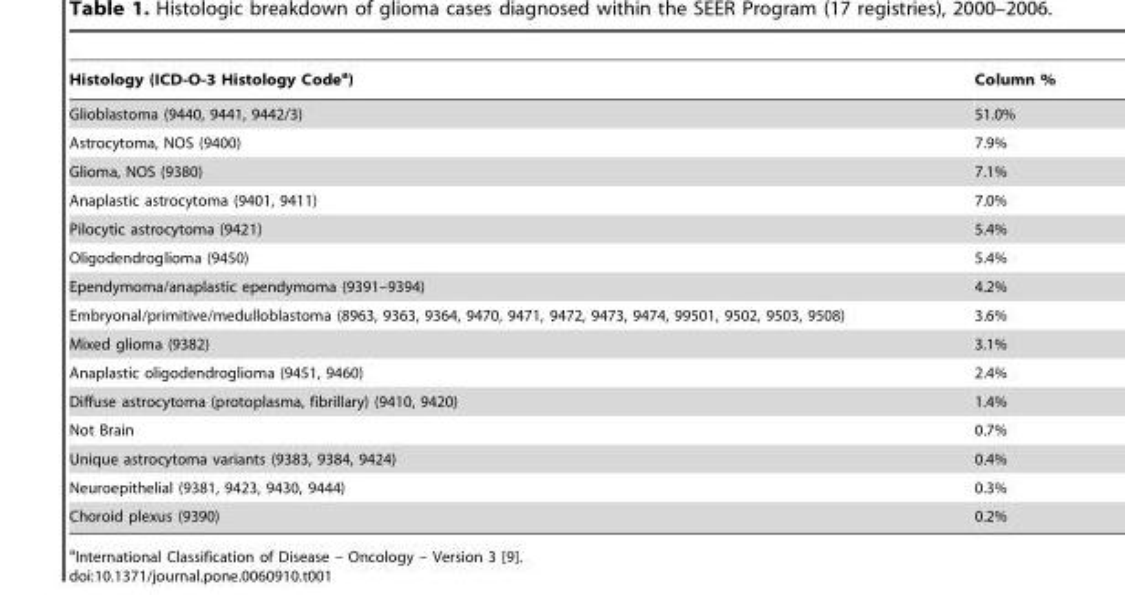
<table><thead><tr><td>Histology (ICD-O-3 Histology Code<sup>a</sup>)</td><td>Column %</td></tr></thead><tbody><tr><td>Glioblastoma (9440, 9441, 9442/3)</td><td>51.0%</td></tr><tr><td>Astrocytoma, NOS (9400)</td><td>7.9%</td></tr><tr><td>Glioma, NOS (9380)</td><td>7.1%</td></tr><tr><td>Anaplastic astrocytoma (9401, 9411)</td><td>7.0%</td></tr><tr><td>Pilocytic astrocytoma (9421)</td><td>5.4%</td></tr><tr><td>Oligodendroglioma (9450)</td><td>5.4%</td></tr><tr><td>Ependymoma/anaplastic ependymoma (9391–9394)</td><td>4.2%</td></tr><tr><td>Embryonal/primitive/medulloblastoma (8963, 9363, 9364, 9470, 9471, 9472, 9473, 9474, 99501, 9502, 9503, 9508)</td><td>3.6%</td></tr><tr><td>Mixed glioma (9382)</td><td>3.1%</td></tr><tr><td>Anaplastic oligodendroglioma (9451, 9460)</td><td>2.4%</td></tr><tr><td>Diffuse astrocytoma (protoplasma, fibrillary) (9410, 9420)</td><td>1.4%</td></tr><tr><td>Not Brain</td><td>0.7%</td></tr><tr><td>Unique astrocytoma variants (9383, 9384, 9424)</td><td>0.4%</td></tr><tr><td>Neuroepithelial (9381, 9423, 9430, 9444)</td><td>0.3%</td></tr><tr><td>Choroid plexus (9390)</td><td>0.2%</td></tr></tbody></table>